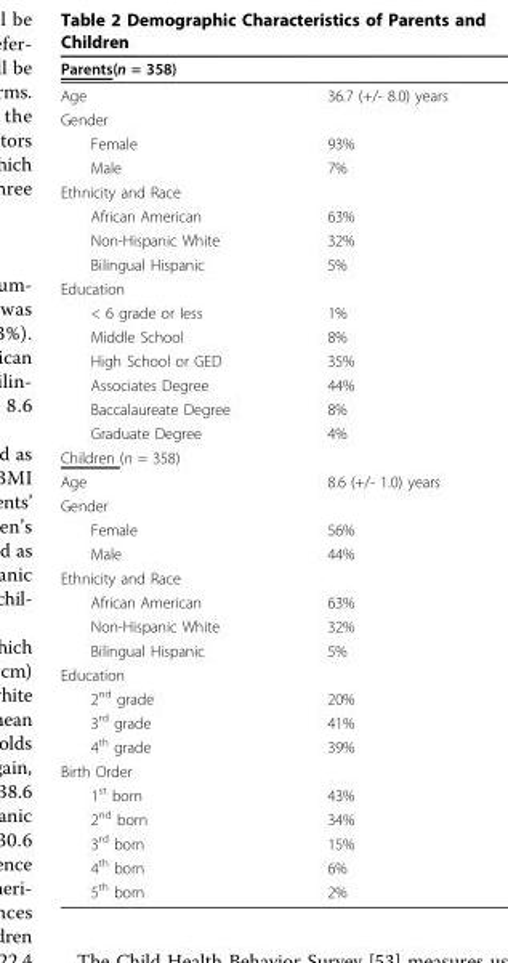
<table><thead><tr><td>Parents(n = 358)</td><td></td></tr></thead><tbody><tr><td>Age</td><td>36.7 (+/- 8.0) years</td></tr><tr><td colspan="2">Gender</td></tr><tr><td>Female</td><td>93%</td></tr><tr><td>Male</td><td>7%</td></tr><tr><td colspan="2">Ethnicity and Race</td></tr><tr><td>African American</td><td>63%</td></tr><tr><td>Non-Hispanic White</td><td>32%</td></tr><tr><td>Bilingual Hispanic</td><td>5%</td></tr><tr><td colspan="2">Education</td></tr><tr><td>&lt; 6 grade or less</td><td>1%</td></tr><tr><td>Middle School</td><td>8%</td></tr><tr><td>High School or GED</td><td>35%</td></tr><tr><td>Associates Degree</td><td>44%</td></tr><tr><td>Baccalaureate Degree</td><td>8%</td></tr><tr><td>Graduate Degree</td><td>4%</td></tr><tr><td colspan="2">Children (n = 358)</td></tr><tr><td>Age</td><td>8.6 (+/- 1.0) years</td></tr><tr><td colspan="2">Gender</td></tr><tr><td>Female</td><td>56%</td></tr><tr><td>Male</td><td>44%</td></tr><tr><td colspan="2">Ethnicity and Race</td></tr><tr><td>African American</td><td>63%</td></tr><tr><td>Non-Hispanic White</td><td>32%</td></tr><tr><td>Bilingual Hispanic</td><td>5%</td></tr><tr><td colspan="2">Education</td></tr><tr><td>2<sup>nd</sup> grade</td><td>20%</td></tr><tr><td>3<sup>rd</sup> grade</td><td>41%</td></tr><tr><td>4<sup>th</sup> grade</td><td>39%</td></tr><tr><td colspan="2">Birth Order</td></tr><tr><td>1<sup>st</sup> born</td><td>43%</td></tr><tr><td>2<sup>nd</sup> born</td><td>34%</td></tr><tr><td>3<sup>rd</sup> born</td><td>15%</td></tr><tr><td>4<sup>th</sup> born</td><td>6%</td></tr><tr><td>5<sup>th</sup> born</td><td>2%</td></tr></tbody></table>